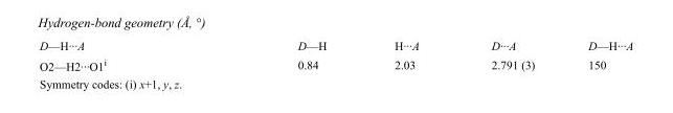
<table><tbody><tr><td>D—H···A</td><td>D—H</td><td>H···A</td><td>D···A</td><td>D—H···A</td></tr><tr><td>O2—H2···O1<sup>i</sup></td><td>0.84</td><td>2.03</td><td>2.791 (3)</td><td>150</td></tr></tbody></table>